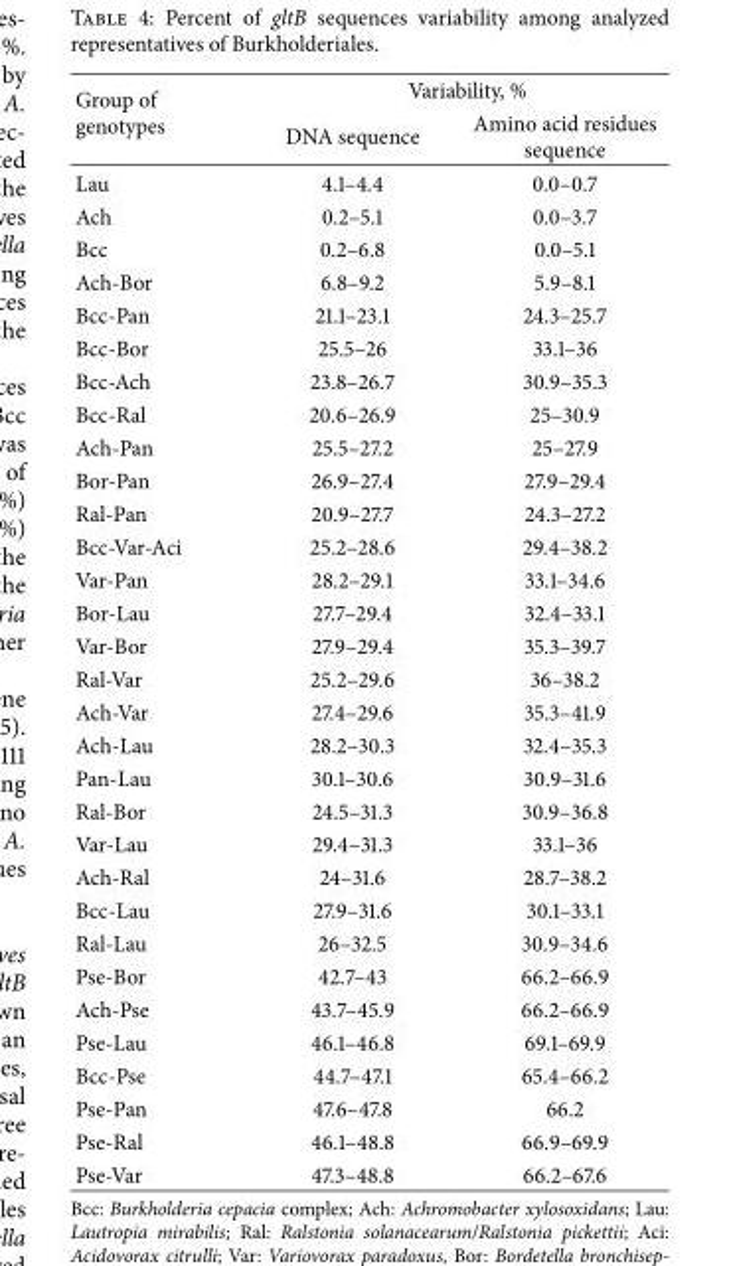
<table><thead><tr><td rowspan="2">Group of genotypes</td><td colspan="2">Variability, %</td></tr><tr><td>DNA sequence</td><td>Amino acid residues sequence</td></tr></thead><tbody><tr><td>Lau</td><td>4.1–4.4</td><td>0.0–0.7</td></tr><tr><td>Ach</td><td>0.2–5.1</td><td>0.0–3.7</td></tr><tr><td>Bcc</td><td>0.2–6.8</td><td>0.0–5.1</td></tr><tr><td>Ach-Bor</td><td>6.8–9.2</td><td>5.9–8.1</td></tr><tr><td>Bcc-Pan</td><td>21.1–23.1</td><td>24.3–25.7</td></tr><tr><td>Bcc-Bor</td><td>25.5–26</td><td>33.1–36</td></tr><tr><td>Bcc-Ach</td><td>23.8–26.7</td><td>30.9–35.3</td></tr><tr><td>Bcc-Ral</td><td>20.6–26.9</td><td>25–30.9</td></tr><tr><td>Ach-Pan</td><td>25.5–27.2</td><td>25–27.9</td></tr><tr><td>Bor-Pan</td><td>26.9–27.4</td><td>27.9–29.4</td></tr><tr><td>Ral-Pan</td><td>20.9–27.7</td><td>24.3–27.2</td></tr><tr><td>Bcc-Var-Aci</td><td>25.2–28.6</td><td>29.4–38.2</td></tr><tr><td>Var-Pan</td><td>28.2–29.1</td><td>33.1–34.6</td></tr><tr><td>Bor-Lau</td><td>27.7–29.4</td><td>32.4–33.1</td></tr><tr><td>Var-Bor</td><td>27.9–29.4</td><td>35.3–39.7</td></tr><tr><td>Ral-Var</td><td>25.2–29.6</td><td>36–38.2</td></tr><tr><td>Ach-Var</td><td>27.4–29.6</td><td>35.3–41.9</td></tr><tr><td>Ach-Lau</td><td>28.2–30.3</td><td>32.4–35.3</td></tr><tr><td>Pan-Lau</td><td>30.1–30.6</td><td>30.9–31.6</td></tr><tr><td>Ral-Bor</td><td>24.5–31.3</td><td>30.9–36.8</td></tr><tr><td>Var-Lau</td><td>29.4–31.3</td><td>33.1–36</td></tr><tr><td>Ach-Ral</td><td>24–31.6</td><td>28.7–38.2</td></tr><tr><td>Bcc-Lau</td><td>27.9–31.6</td><td>30.1–33.1</td></tr><tr><td>Ral-Lau</td><td>26–32.5</td><td>30.9–34.6</td></tr><tr><td>Pse-Bor</td><td>42.7–43</td><td>66.2–66.9</td></tr><tr><td>Ach-Pse</td><td>43.7–45.9</td><td>66.2–66.9</td></tr><tr><td>Pse-Lau</td><td>46.1–46.8</td><td>69.1–69.9</td></tr><tr><td>Bcc-Pse</td><td>44.7–47.1</td><td>65.4–66.2</td></tr><tr><td>Pse-Pan</td><td>47.6–47.8</td><td>66.2</td></tr><tr><td>Pse-Ral</td><td>46.1–48.8</td><td>66.9–69.9</td></tr><tr><td>Pse-Var</td><td>47.3–48.8</td><td>66.2–67.6</td></tr></tbody></table>